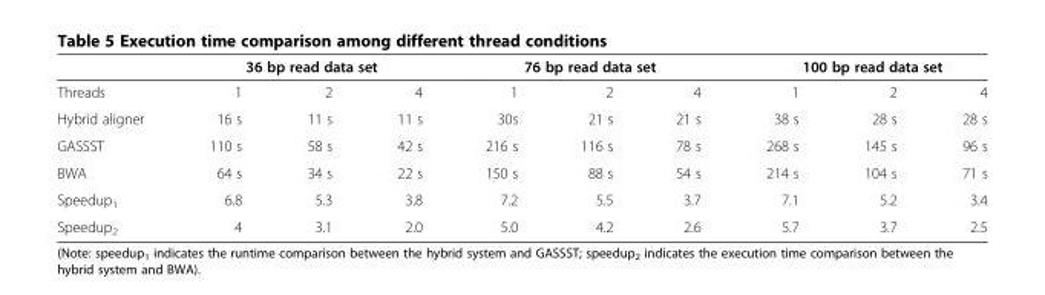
<table><thead><tr><td rowspan="2">Threads</td><td colspan="3">36 bp read data set</td><td colspan="3">76 bp read data set</td><td colspan="3">100 bp read data set</td></tr><tr><td>1</td><td>2</td><td>4</td><td>1</td><td>2</td><td>4</td><td>1</td><td>2</td><td>4</td></tr></thead><tbody><tr><td>Hybrid aligner</td><td>16 s</td><td>11 s</td><td>11 s</td><td>30s</td><td>21 s</td><td>21 s</td><td>38 s</td><td>28 s</td><td>28 s</td></tr><tr><td>GASSST</td><td>110 s</td><td>58 s</td><td>42 s</td><td>216 s</td><td>116 s</td><td>78 s</td><td>268 s</td><td>145 s</td><td>96 s</td></tr><tr><td>BWA</td><td>64 s</td><td>34 s</td><td>22 s</td><td>150 s</td><td>88 s</td><td>54 s</td><td>214 s</td><td>104 s</td><td>71 s</td></tr><tr><td>Speedup<sub>1</sub></td><td>6.8</td><td>5.3</td><td>3.8</td><td>7.2</td><td>5.5</td><td>3.7</td><td>7.1</td><td>5.2</td><td>3.4</td></tr><tr><td>Speedup<sub>2</sub></td><td>4</td><td>3.1</td><td>2.0</td><td>5.0</td><td>4.2</td><td>2.6</td><td>5.7</td><td>3.7</td><td>2.5</td></tr></tbody></table>